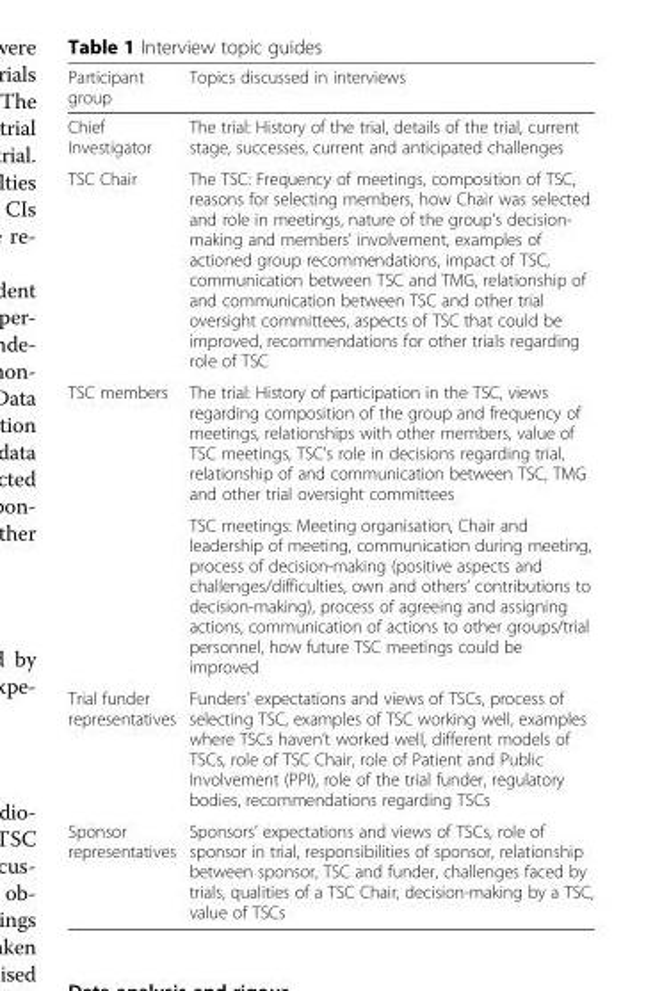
<table><thead><tr><td>Participant group</td><td>Topics discussed in interviews</td></tr></thead><tbody><tr><td>Chief Investigator</td><td>The trial: History of the trial, details of the trial, current stage, successes, current and anticipated challenges</td></tr><tr><td>TSC Chair</td><td>The TSC: Frequency of meetings, composition of TSC, reasons for selecting members, how Chair was selected and role in meetings, nature of the group’s decision- making and members’ involvement, examples of actioned group recommendations, impact of TSC, communication between TSC and TMG, relationship of and communication between TSC and other trial oversight committees, aspects of TSC that could be improved, recommendations for other trials regarding role of TSC</td></tr><tr><td rowspan="2">TSC members</td><td>The trial: History of participation in the TSC, views regarding composition of the group and frequency of meetings, relationships with other members, value of TSC meetings, TSC’s role in decisions regarding trial, relationship of and communication between TSC, TMG and other trial oversight committees</td></tr><tr><td>TSC meetings: Meeting organisation, Chair and leadership of meeting, communication during meeting, process of decision-making (positive aspects and challenges/difficulties, own and others’ contributions to decision-making), process of agreeing and assigning actions, communication of actions to other groups/trial personnel, how future TSC meetings could be improved</td></tr><tr><td>Trial funder representatives</td><td>Funders’ expectations and views of TSCs, process of selecting TSC, examples of TSC working well, examples where TSCs haven’t worked well, different models of TSCs, role of TSC Chair, role of Patient and Public Involvement (PPI), role of the trial funder, regulatory bodies, recommendations regarding TSCs</td></tr><tr><td>Sponsor representatives</td><td>Sponsors’ expectations and views of TSCs, role of sponsor in trial, responsibilities of sponsor, relationship between sponsor, TSC and funder, challenges faced by trials, qualities of a TSC Chair, decision-making by a TSC, value of TSCs</td></tr></tbody></table>